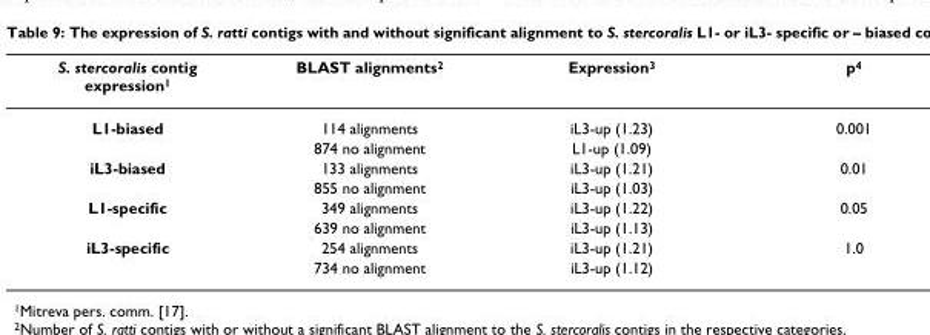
<table><thead><tr><td>S. stercoralis contig expression1</td><td>BLAST alignments2</td><td>Expression3</td><td>p4</td></tr></thead><tbody><tr><td rowspan="2">L1-biased</td><td>114 alignments</td><td>iL3-up (1.23)</td><td>0.001</td></tr><tr><td>874 no alignment</td><td>L1-up (1.09)</td><td></td></tr><tr><td rowspan="2">iL3-biased</td><td>133 alignments</td><td>iL3-up (1.21)</td><td>0.01</td></tr><tr><td>855 no alignment</td><td>iL3-up (1.03)</td><td></td></tr><tr><td rowspan="2">L1-specific</td><td>349 alignments</td><td>iL3-up (1.22)</td><td>0.05</td></tr><tr><td>639 no alignment</td><td>iL3-up (1.13)</td><td></td></tr><tr><td rowspan="2">iL3-specific</td><td>254 alignments</td><td>iL3-up (1.21)</td><td>1.0</td></tr><tr><td>734 no alignment</td><td>iL3-up (1.12)</td><td></td></tr></tbody></table>